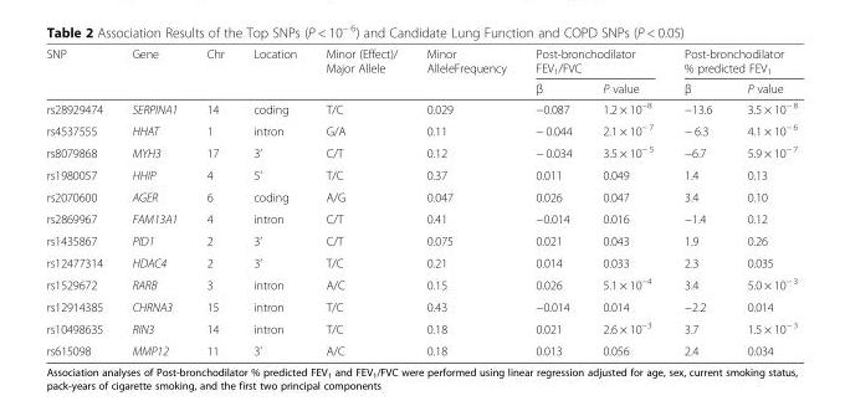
<table><thead><tr><td rowspan="2">SNP</td><td rowspan="2">Gene</td><td rowspan="2">Chr</td><td rowspan="2">Location</td><td rowspan="2">Minor (Effect)/ Major Allele</td><td rowspan="2">Minor AlleleFrequency</td><td colspan="2">Post-bronchodilator FEV<sub>1</sub>/FVC</td><td colspan="2">Post-bronchodilator % predicted FEV<sub>1</sub></td></tr><tr><td>β</td><td>P value</td><td>β</td><td>P value</td></tr></thead><tbody><tr><td>rs28929474</td><td>SERPINA1</td><td>14</td><td>coding</td><td>T/C</td><td>0.029</td><td>−0.087</td><td>1.2 × 10<sup>−8</sup></td><td>−13.6</td><td>3.5 × 10<sup>− 8</sup></td></tr><tr><td>rs4537555</td><td>HHAT</td><td>1</td><td>intron</td><td>G/A</td><td>0.11</td><td>− 0.044</td><td>2.1 × 10<sup>− 7</sup></td><td>− 6.3</td><td>4.1 × 10<sup>− 6</sup></td></tr><tr><td>rs8079868</td><td>MYH3</td><td>17</td><td>3’</td><td>C/T</td><td>0.12</td><td>− 0.034</td><td>3.5 × 10<sup>− 5</sup></td><td>−6.7</td><td>5.9 × 10<sup>− 7</sup></td></tr><tr><td>rs1980057</td><td>HHIP</td><td>4</td><td>5’</td><td>T/C</td><td>0.37</td><td>0.011</td><td>0.049</td><td>1.4</td><td>0.13</td></tr><tr><td>rs2070600</td><td>AGER</td><td>6</td><td>coding</td><td>A/G</td><td>0.047</td><td>0.026</td><td>0.047</td><td>3.4</td><td>0.10</td></tr><tr><td>rs2869967</td><td>FAM13A1</td><td>4</td><td>intron</td><td>C/T</td><td>0.41</td><td>−0.014</td><td>0.016</td><td>−1.4</td><td>0.12</td></tr><tr><td>rs1435867</td><td>PID1</td><td>2</td><td>3’</td><td>C/T</td><td>0.075</td><td>0.021</td><td>0.043</td><td>1.9</td><td>0.26</td></tr><tr><td>rs12477314</td><td>HDAC4</td><td>2</td><td>3’</td><td>T/C</td><td>0.21</td><td>0.014</td><td>0.033</td><td>2.3</td><td>0.035</td></tr><tr><td>rs1529672</td><td>RARB</td><td>3</td><td>intron</td><td>A/C</td><td>0.15</td><td>0.026</td><td>5.1 × 10<sup>−4</sup></td><td>3.4</td><td>5.0 × 10<sup>− 3</sup></td></tr><tr><td>rs12914385</td><td>CHRNA3</td><td>15</td><td>intron</td><td>T/C</td><td>0.43</td><td>−0.014</td><td>0.014</td><td>−2.2</td><td>0.014</td></tr><tr><td>rs10498635</td><td>RIN3</td><td>14</td><td>intron</td><td>T/C</td><td>0.18</td><td>0.021</td><td>2.6 × 10<sup>−3</sup></td><td>3.7</td><td>1.5 × 10<sup>− 3</sup></td></tr><tr><td>rs615098</td><td>MMP12</td><td>11</td><td>3’</td><td>A/C</td><td>0.18</td><td>0.013</td><td>0.056</td><td>2.4</td><td>0.034</td></tr></tbody></table>